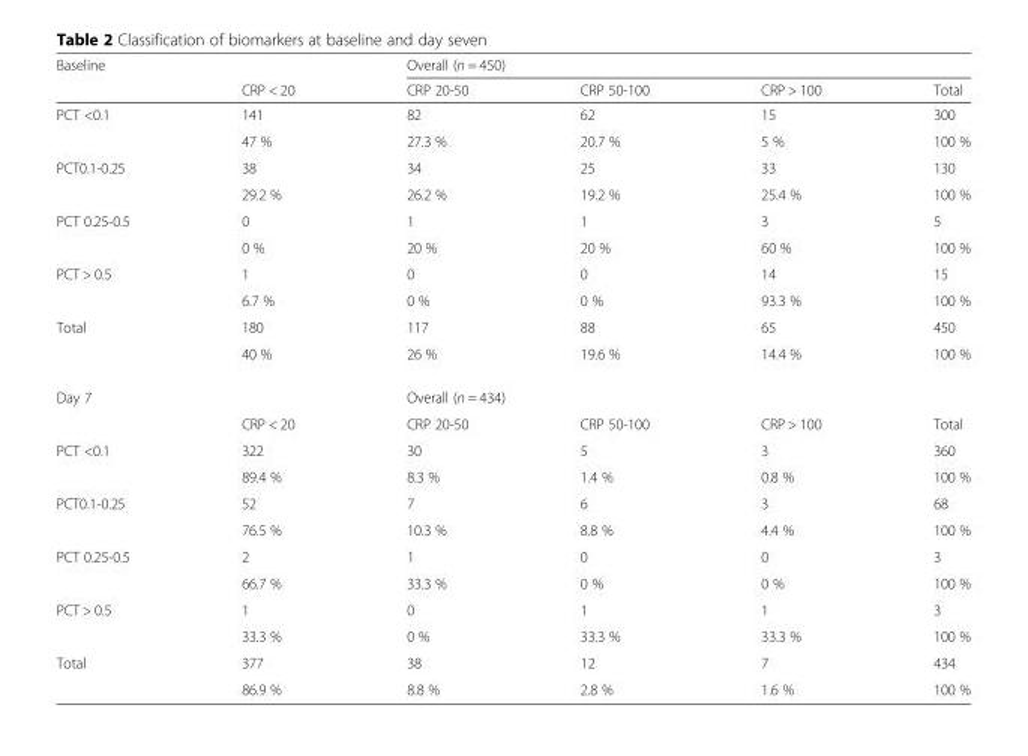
<table><thead><tr><td rowspan="2">Baseline</td><td rowspan="2">CRP &lt; 20</td><td colspan="4">Overall (n = 450)</td></tr><tr><td>CRP 20-50</td><td>CRP 50-100</td><td>CRP &gt; 100</td><td>Total</td></tr></thead><tbody><tr><td rowspan="2">PCT &lt;0.1</td><td>141</td><td>82</td><td>62</td><td>15</td><td>300</td></tr><tr><td>47 %</td><td>27.3 %</td><td>20.7 %</td><td>5 %</td><td>100 %</td></tr><tr><td rowspan="2">PCT0.1-0.25</td><td>38</td><td>34</td><td>25</td><td>33</td><td>130</td></tr><tr><td>29.2 %</td><td>26.2 %</td><td>19.2 %</td><td>25.4 %</td><td>100 %</td></tr><tr><td rowspan="2">PCT 0.25-0.5</td><td>0</td><td>1</td><td>1</td><td>3</td><td>5</td></tr><tr><td>0 %</td><td>20 %</td><td>20 %</td><td>60 %</td><td>100 %</td></tr><tr><td rowspan="2">PCT &gt; 0.5</td><td>1</td><td>0</td><td>0</td><td>14</td><td>15</td></tr><tr><td>6.7 %</td><td>0 %</td><td>0 %</td><td>93.3 %</td><td>100 %</td></tr><tr><td rowspan="2">Total</td><td>180</td><td>117</td><td>88</td><td>65</td><td>450</td></tr><tr><td>40 %</td><td>26 %</td><td>19.6 %</td><td>14.4 %</td><td>100 %</td></tr><tr><td rowspan="2">Day 7</td><td></td><td colspan="4">Overall (n = 434)</td></tr><tr><td>CRP &lt; 20</td><td>CRP 20-50</td><td>CRP 50-100</td><td>CRP &gt; 100</td><td>Total</td></tr><tr><td rowspan="2">PCT &lt;0.1</td><td>322</td><td>30</td><td>5</td><td>3</td><td>360</td></tr><tr><td>89.4 %</td><td>8.3 %</td><td>1.4 %</td><td>0.8 %</td><td>100 %</td></tr><tr><td rowspan="2">PCT0.1-0.25</td><td>52</td><td>7</td><td>6</td><td>3</td><td>68</td></tr><tr><td>76.5 %</td><td>10.3 %</td><td>8.8 %</td><td>4.4 %</td><td>100 %</td></tr><tr><td rowspan="2">PCT 0.25-0.5</td><td>2</td><td>1</td><td>0</td><td>0</td><td>3</td></tr><tr><td>66.7 %</td><td>33.3 %</td><td>0 %</td><td>0 %</td><td>100 %</td></tr><tr><td rowspan="2">PCT &gt; 0.5</td><td>1</td><td>0</td><td>1</td><td>1</td><td>3</td></tr><tr><td>33.3 %</td><td>0 %</td><td>33.3 %</td><td>33.3 %</td><td>100 %</td></tr><tr><td rowspan="2">Total</td><td>377</td><td>38</td><td>12</td><td>7</td><td>434</td></tr><tr><td>86.9 %</td><td>8.8 %</td><td>2.8 %</td><td>1.6 %</td><td>100 %</td></tr></tbody></table>